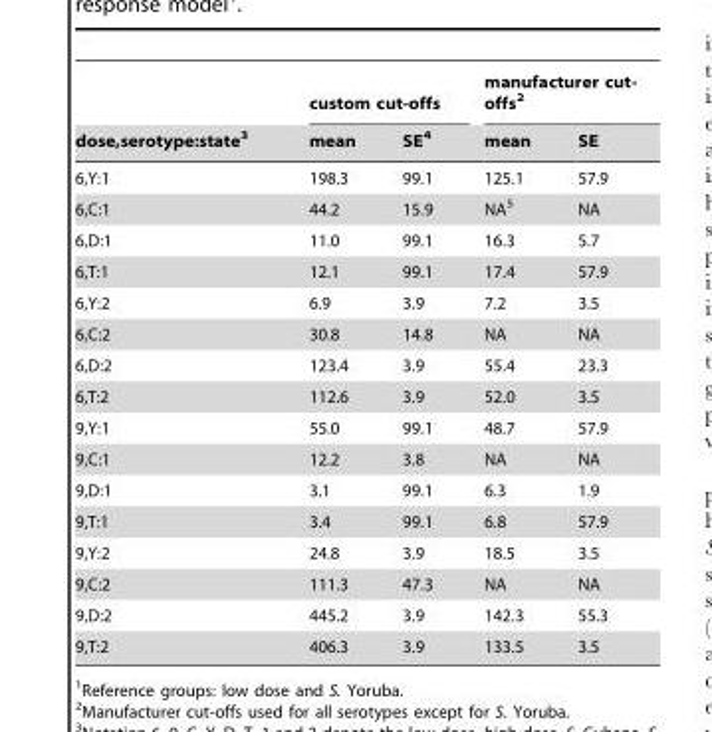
<table><thead><tr><td rowspan="2">dose,serotype:state<sup>3</sup></td><td colspan="2">custom cut-offs</td><td colspan="2">manufacturer cut- offs<sup>2</sup></td></tr><tr><td>mean</td><td>SE<sup>4</sup></td><td>mean</td><td>SE</td></tr></thead><tbody><tr><td>6,Y:1</td><td>198.3</td><td>99.1</td><td>125.1</td><td>57.9</td></tr><tr><td>6,C:1</td><td>44.2</td><td>15.9</td><td>NA<sup>5</sup></td><td>NA</td></tr><tr><td>6,D:1</td><td>11.0</td><td>99.1</td><td>16.3</td><td>5.7</td></tr><tr><td>6,T:1</td><td>12.1</td><td>99.1</td><td>17.4</td><td>57.9</td></tr><tr><td>6,Y:2</td><td>6.9</td><td>3.9</td><td>7.2</td><td>3.5</td></tr><tr><td>6,C:2</td><td>30.8</td><td>14.8</td><td>NA</td><td>NA</td></tr><tr><td>6,D:2</td><td>123.4</td><td>3.9</td><td>55.4</td><td>23.3</td></tr><tr><td>6,T:2</td><td>112.6</td><td>3.9</td><td>52.0</td><td>3.5</td></tr><tr><td>9,Y:1</td><td>55.0</td><td>99.1</td><td>48.7</td><td>57.9</td></tr><tr><td>9,C:1</td><td>12.2</td><td>3.8</td><td>NA</td><td>NA</td></tr><tr><td>9,D:1</td><td>3.1</td><td>99.1</td><td>6.3</td><td>1.9</td></tr><tr><td>9,T:1</td><td>3.4</td><td>99.1</td><td>6.8</td><td>57.9</td></tr><tr><td>9,Y:2</td><td>24.8</td><td>3.9</td><td>18.5</td><td>3.5</td></tr><tr><td>9,C:2</td><td>111.3</td><td>47.3</td><td>NA</td><td>NA</td></tr><tr><td>9,D:2</td><td>445.2</td><td>3.9</td><td>142.3</td><td>55.3</td></tr><tr><td>9,T:2</td><td>406.3</td><td>3.9</td><td>133.5</td><td>3.5</td></tr></tbody></table>